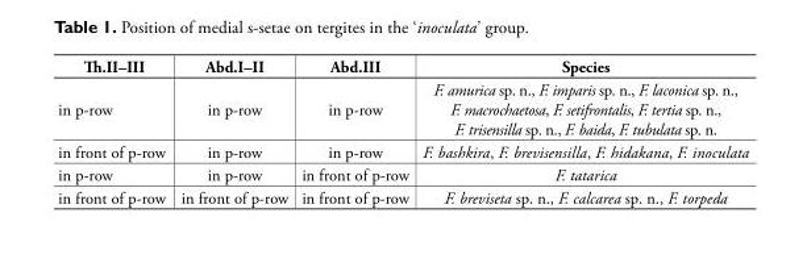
<table><thead><tr><td>Th.II–III</td><td>Abd.I–II</td><td>Abd.III</td><td>Species</td></tr></thead><tbody><tr><td>in p-row</td><td>in p-row</td><td>in p-row</td><td>F. amurica sp. n., F. imparis sp. n., F. laconica sp. n., F. macrochaetosa, F. setifrontalis, F. tertia sp. n., F. trisensilla sp. n., F. baida, F. tubulata sp. n.</td></tr><tr><td>in front of p-row</td><td>in p-row</td><td>in p-row</td><td>F. bashkira, F. brevisensilla, F. hidakana, F. inoculata</td></tr><tr><td>in p-row</td><td>in p-row</td><td>in front of p-row</td><td>F. tatarica</td></tr><tr><td>in front of p-row</td><td>in front of p-row</td><td>in front of p-row</td><td>F. breviseta sp. n., F. calcarea sp. n., F. torpeda</td></tr></tbody></table>